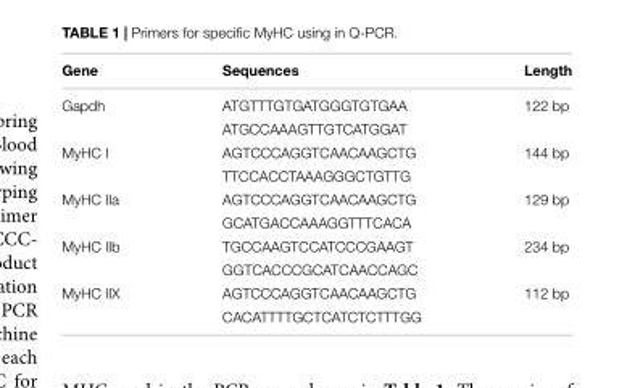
<table><thead><tr><td>Gene</td><td>Sequences</td><td>Length</td></tr></thead><tbody><tr><td rowspan="2">Gapdh</td><td>ATGTTTGTGATGGGTGTGAA</td><td>122 bp</td></tr><tr><td>ATGCCAAAGTTGTCATGGAT</td><td></td></tr><tr><td rowspan="2">MyHC I</td><td>AGTCCCAGGTCAACAAGCTG</td><td>144 bp</td></tr><tr><td>TTCCACCTAAAGGGCTGTTG</td><td></td></tr><tr><td rowspan="2">MyHC IIa</td><td>AGTCCCAGGTCAACAAGCTG</td><td>129 bp</td></tr><tr><td>GCATGACCAAAGGTTTCACA</td><td></td></tr><tr><td rowspan="2">MyHC IIb</td><td>TGCCAAGTCCATCCCGAAGT</td><td>234 bp</td></tr><tr><td>GGTCACCCGCATCAACCAGC</td><td></td></tr><tr><td rowspan="2">MyHC IIX</td><td>AGTCCCAGGTCAACAAGCTG</td><td>112 bp</td></tr><tr><td>CACATTTTGCTCATCTCTTTGG</td><td></td></tr></tbody></table>